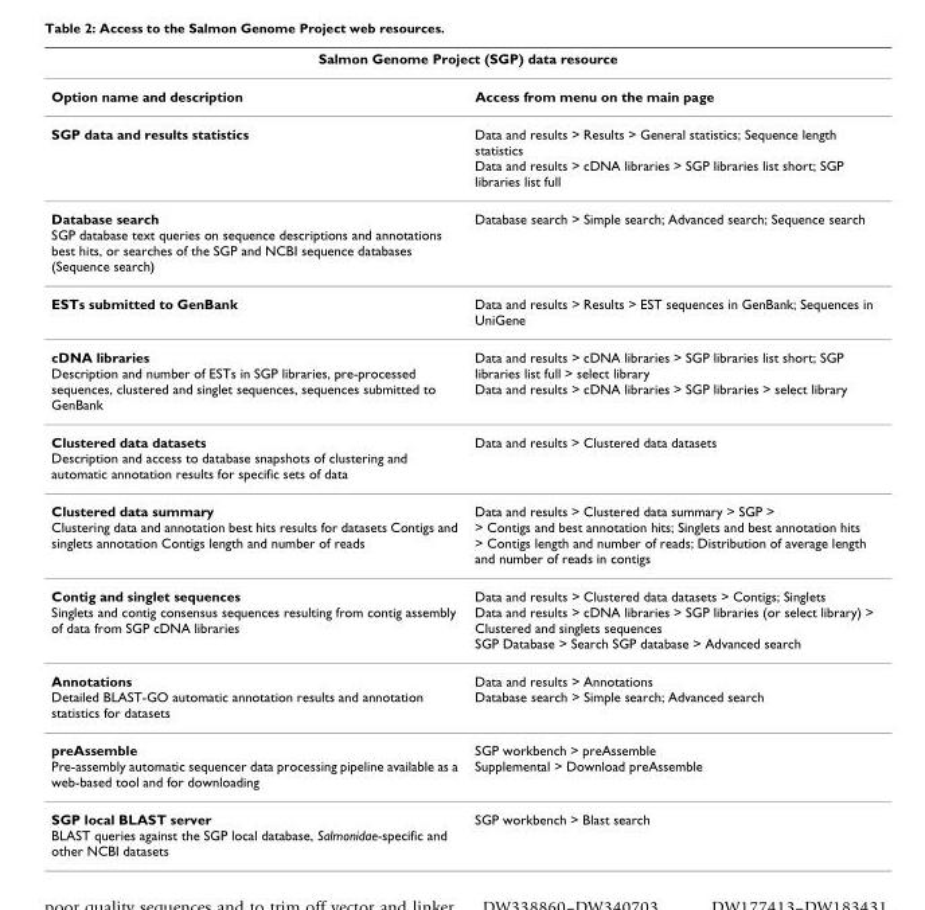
<table><thead><tr><td colspan="2">Salmon Genome Project (SGP) data resource</td></tr><tr><td>Option name and description</td><td>Access from menu on the main page</td></tr></thead><tbody><tr><td>SGP data and results statistics</td><td>Data and results &gt; Results &gt; General statistics; Sequence length statistics Data and results &gt; cDNA libraries &gt; SGP libraries list short; SGP libraries list full</td></tr><tr><td>Database search SGP database text queries on sequence descriptions and annotations best hits, or searches of the SGP and NCBI sequence databases (Sequence search)</td><td>Database search &gt; Simple search; Advanced search; Sequence search</td></tr><tr><td>ESTs submitted to GenBank</td><td>Data and results &gt; Results &gt; EST sequences in GenBank; Sequences in UniGene</td></tr><tr><td>cDNA libraries Description and number of ESTs in SGP libraries, pre-processed sequences, clustered and singlet sequences, sequences submitted to GenBank</td><td>Data and results &gt; cDNA libraries &gt; SGP libraries list short; SGP libraries list full &gt; select library Data and results &gt; cDNA libraries &gt; SGP libraries &gt; select library</td></tr><tr><td>Clustered data datasets Description and access to database snapshots of clustering and automatic annotation results for specific sets of data</td><td>Data and results &gt; Clustered data datasets</td></tr><tr><td>Clustered data summary Clustering data and annotation best hits results for datasets Contigs and singlets annotation Contigs length and number of reads</td><td>Data and results &gt; Clustered data summary &gt; SGP &gt; &gt; Contigs and best annotation hits; Singlets and best annotation hits &gt; Contigs length and number of reads; Distribution of average length and number of reads in contigs</td></tr><tr><td>Contig and singlet sequences Singlets and contig consensus sequences resulting from contig assembly of data from SGP cDNA libraries</td><td>Data and results &gt; Clustered data datasets &gt; Contigs; Singlets Data and results &gt; cDNA libraries &gt; SGP libraries (or select library) &gt; Clustered and singlets sequences SGP Database &gt; Search SGP database &gt; Advanced search</td></tr><tr><td>Annotations Detailed BLAST-GO automatic annotation results and annotation statistics for datasets</td><td>Data and results &gt; Annotations Database search &gt; Simple search; Advanced search</td></tr><tr><td>preAssemble Pre-assembly automatic sequencer data processing pipeline available as a web-based tool and for downloading</td><td>SGP workbench &gt; preAssemble Supplemental &gt; Download preAssemble</td></tr><tr><td>SGP local BLAST server BLAST queries against the SGP local database, Salmonidae-specific and other NCBI datasets</td><td>SGP workbench &gt; Blast search</td></tr></tbody></table>